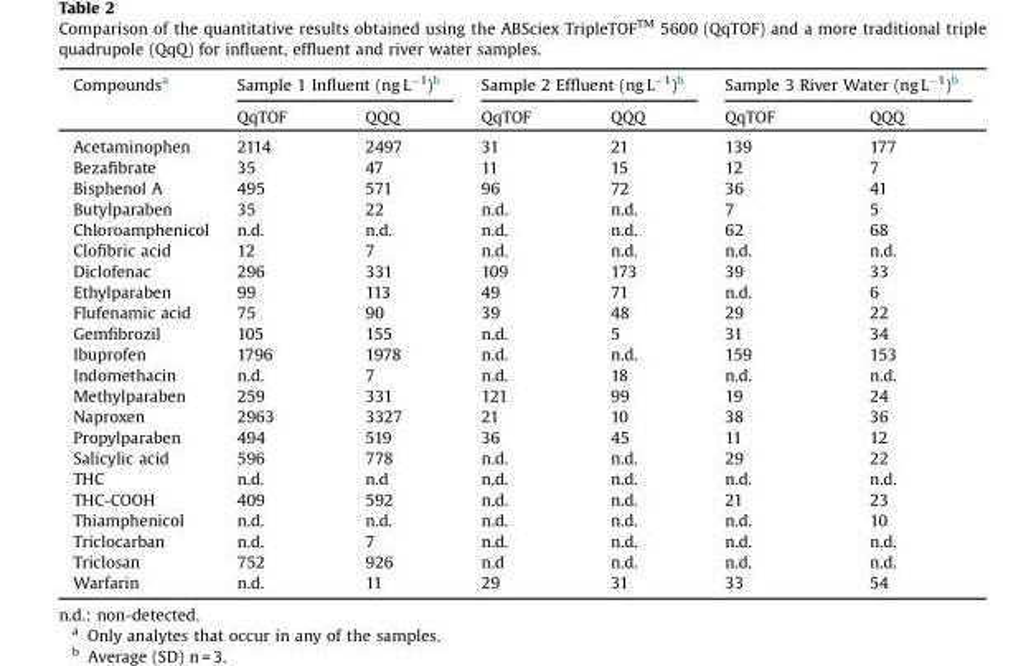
<table><thead><tr><td rowspan="2">Compounds<sup>a</sup></td><td colspan="2">Sample 1 Influent (ng L<sup>−1</sup>)<sup>b</sup></td><td colspan="2">Sample 2 Effluent (ng L<sup>−1</sup>)<sup>b</sup></td><td colspan="2">Sample 3 River Water (ng L<sup>−1</sup>)<sup>b</sup></td></tr><tr><td>QqTOF</td><td>QQQ</td><td>QqTOF</td><td>QQQ</td><td>QqTOF</td><td>QQQ</td></tr></thead><tbody><tr><td>Acetaminophen</td><td>2114</td><td>2497</td><td>31</td><td>21</td><td>139</td><td>177</td></tr><tr><td>Bezafibrate</td><td>35</td><td>47</td><td>11</td><td>15</td><td>12</td><td>7</td></tr><tr><td>Bisphenol A</td><td>495</td><td>571</td><td>96</td><td>72</td><td>36</td><td>41</td></tr><tr><td>Butylparaben</td><td>35</td><td>22</td><td>n.d.</td><td>n.d.</td><td>7</td><td>5</td></tr><tr><td>Chloroamphenicol</td><td>n.d.</td><td>n.d.</td><td>n.d.</td><td>n.d.</td><td>62</td><td>68</td></tr><tr><td>Clofibric acid</td><td>12</td><td>7</td><td>n.d.</td><td>n.d.</td><td>n.d.</td><td>n.d.</td></tr><tr><td>Diclofenac</td><td>296</td><td>331</td><td>109</td><td>173</td><td>39</td><td>33</td></tr><tr><td>Ethylparaben</td><td>99</td><td>113</td><td>49</td><td>71</td><td>n.d.</td><td>6</td></tr><tr><td>Flufenamic acid</td><td>75</td><td>90</td><td>39</td><td>48</td><td>29</td><td>22</td></tr><tr><td>Gemfibrozil</td><td>105</td><td>155</td><td>n.d.</td><td>5</td><td>31</td><td>34</td></tr><tr><td>Ibuprofen</td><td>1796</td><td>1978</td><td>n.d.</td><td>n.d.</td><td>159</td><td>153</td></tr><tr><td>Indomethacin</td><td>n.d.</td><td>7</td><td>n.d.</td><td>18</td><td>n.d.</td><td>n.d.</td></tr><tr><td>Methylparaben</td><td>259</td><td>331</td><td>121</td><td>99</td><td>19</td><td>24</td></tr><tr><td>Naproxen</td><td>2963</td><td>3327</td><td>21</td><td>10</td><td>38</td><td>36</td></tr><tr><td>Propylparaben</td><td>494</td><td>519</td><td>36</td><td>45</td><td>11</td><td>12</td></tr><tr><td>Salicylic acid</td><td>596</td><td>778</td><td>n.d.</td><td>n.d.</td><td>29</td><td>22</td></tr><tr><td>THC</td><td>n.d.</td><td>n.d</td><td>n.d.</td><td>n.d.</td><td>n.d.</td><td>n.d.</td></tr><tr><td>THC-COOH</td><td>409</td><td>592</td><td>n.d.</td><td>n.d.</td><td>21</td><td>23</td></tr><tr><td>Thiamphenicol</td><td>n.d.</td><td>n.d.</td><td>n.d.</td><td>n.d.</td><td>n.d.</td><td>10</td></tr><tr><td>Triclocarban</td><td>n.d.</td><td>7</td><td>n.d.</td><td>n.d.</td><td>n.d.</td><td>n.d.</td></tr><tr><td>Triclosan</td><td>752</td><td>926</td><td>n.d</td><td>n.d.</td><td>n.d.</td><td>n.d.</td></tr><tr><td>Warfarin</td><td>n.d.</td><td>11</td><td>29</td><td>31</td><td>33</td><td>54</td></tr></tbody></table>